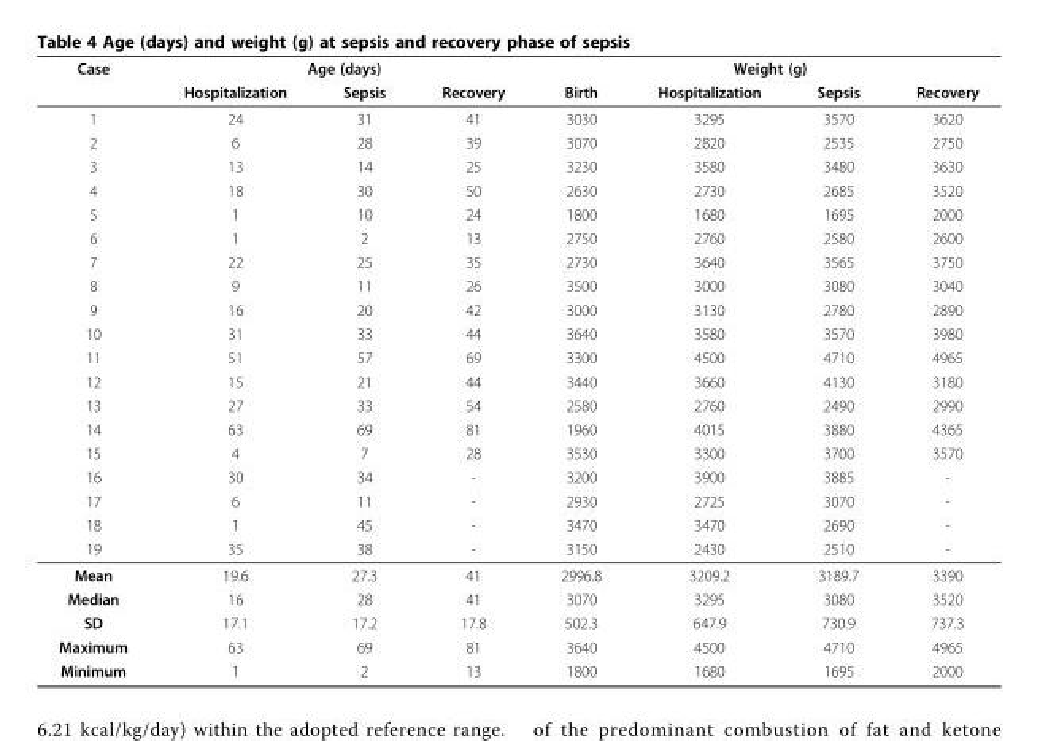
<table><thead><tr><td rowspan="2">Case</td><td colspan="3">Age (days)</td><td colspan="4">Weight (g)</td></tr><tr><td>Hospitalization</td><td>Sepsis</td><td>Recovery</td><td>Birth</td><td>Hospitalization</td><td>Sepsis</td><td>Recovery</td></tr></thead><tbody><tr><td>1</td><td>24</td><td>31</td><td>41</td><td>3030</td><td>3295</td><td>3570</td><td>3620</td></tr><tr><td>2</td><td>6</td><td>28</td><td>39</td><td>3070</td><td>2820</td><td>2535</td><td>2750</td></tr><tr><td>3</td><td>13</td><td>14</td><td>25</td><td>3230</td><td>3580</td><td>3480</td><td>3630</td></tr><tr><td>4</td><td>18</td><td>30</td><td>50</td><td>2630</td><td>2730</td><td>2685</td><td>3520</td></tr><tr><td>5</td><td>1</td><td>10</td><td>24</td><td>1800</td><td>1680</td><td>1695</td><td>2000</td></tr><tr><td>6</td><td>1</td><td>2</td><td>13</td><td>2750</td><td>2760</td><td>2580</td><td>2600</td></tr><tr><td>7</td><td>22</td><td>25</td><td>35</td><td>2730</td><td>3640</td><td>3565</td><td>3750</td></tr><tr><td>8</td><td>9</td><td>11</td><td>26</td><td>3500</td><td>3000</td><td>3080</td><td>3040</td></tr><tr><td>9</td><td>16</td><td>20</td><td>42</td><td>3000</td><td>3130</td><td>2780</td><td>2890</td></tr><tr><td>10</td><td>31</td><td>33</td><td>44</td><td>3640</td><td>3580</td><td>3570</td><td>3980</td></tr><tr><td>11</td><td>51</td><td>57</td><td>69</td><td>3300</td><td>4500</td><td>4710</td><td>4965</td></tr><tr><td>12</td><td>15</td><td>21</td><td>44</td><td>3440</td><td>3660</td><td>4130</td><td>3180</td></tr><tr><td>13</td><td>27</td><td>33</td><td>54</td><td>2580</td><td>2760</td><td>2490</td><td>2990</td></tr><tr><td>14</td><td>63</td><td>69</td><td>81</td><td>1960</td><td>4015</td><td>3880</td><td>4365</td></tr><tr><td>15</td><td>4</td><td>7</td><td>28</td><td>3530</td><td>3300</td><td>3700</td><td>3570</td></tr><tr><td>16</td><td>30</td><td>34</td><td>-</td><td>3200</td><td>3900</td><td>3885</td><td>-</td></tr><tr><td>17</td><td>6</td><td>11</td><td>-</td><td>2930</td><td>2725</td><td>3070</td><td>-</td></tr><tr><td>18</td><td>1</td><td>45</td><td>-</td><td>3470</td><td>3470</td><td>2690</td><td>-</td></tr><tr><td>19</td><td>35</td><td>38</td><td>-</td><td>3150</td><td>2430</td><td>2510</td><td>-</td></tr><tr><td>Mean</td><td>19.6</td><td>27.3</td><td>41</td><td>2996.8</td><td>3209.2</td><td>3189.7</td><td>3390</td></tr><tr><td>Median</td><td>16</td><td>28</td><td>41</td><td>3070</td><td>3295</td><td>3080</td><td>3520</td></tr><tr><td>SD</td><td>17.1</td><td>17.2</td><td>17.8</td><td>502.3</td><td>647.9</td><td>730.9</td><td>737.3</td></tr><tr><td>Maximum</td><td>63</td><td>69</td><td>81</td><td>3640</td><td>4500</td><td>4710</td><td>4965</td></tr><tr><td>Minimum</td><td>1</td><td>2</td><td>13</td><td>1800</td><td>1680</td><td>1695</td><td>2000</td></tr></tbody></table>